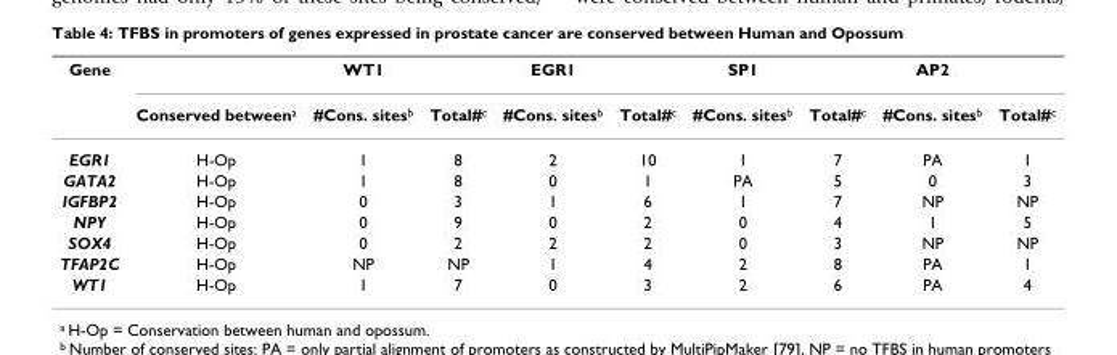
<table><thead><tr><td rowspan="2">Gene</td><td rowspan="2">Conserved between<sup>a</sup></td><td rowspan="2">WT1 #Cons. sitesb</td><td rowspan="2">Total#<sup>c</sup></td><td rowspan="2">EGR1 #Cons. sitesb</td><td rowspan="2">Total#<sup>c</sup></td><td rowspan="2">SP1 #Cons. sites<sup>b</sup></td><td rowspan="2">Total#<sup>c</sup></td><td rowspan="2">AP2 #Cons. sites<sup>b</sup></td><td rowspan="2">Total#<sup>c</sup></td></tr><tr></tr></thead><tbody><tr><td>EGR1</td><td>H-Op</td><td>1</td><td>8</td><td>2</td><td>10</td><td>1</td><td>7</td><td>PA</td><td>1</td></tr><tr><td>GATA2</td><td>H-Op</td><td>1</td><td>8</td><td>0</td><td>1</td><td>PA</td><td>5</td><td>0</td><td>3</td></tr><tr><td>IGFBP2</td><td>H-Op</td><td>0</td><td>3</td><td>1</td><td>6</td><td>1</td><td>7</td><td>NP</td><td>NP</td></tr><tr><td>NPY</td><td>H-Op</td><td>0</td><td>9</td><td>0</td><td>2</td><td>0</td><td>4</td><td>1</td><td>5</td></tr><tr><td>SOX4</td><td>H-Op</td><td>0</td><td>2</td><td>2</td><td>2</td><td>0</td><td>3</td><td>NP</td><td>NP</td></tr><tr><td>TFAP2C</td><td>H-Op</td><td>NP</td><td>NP</td><td>1</td><td>4</td><td>2</td><td>8</td><td>PA</td><td>1</td></tr><tr><td>WT1</td><td>H-Op</td><td>1</td><td>7</td><td>0</td><td>3</td><td>2</td><td>6</td><td>PA</td><td>4</td></tr></tbody></table>